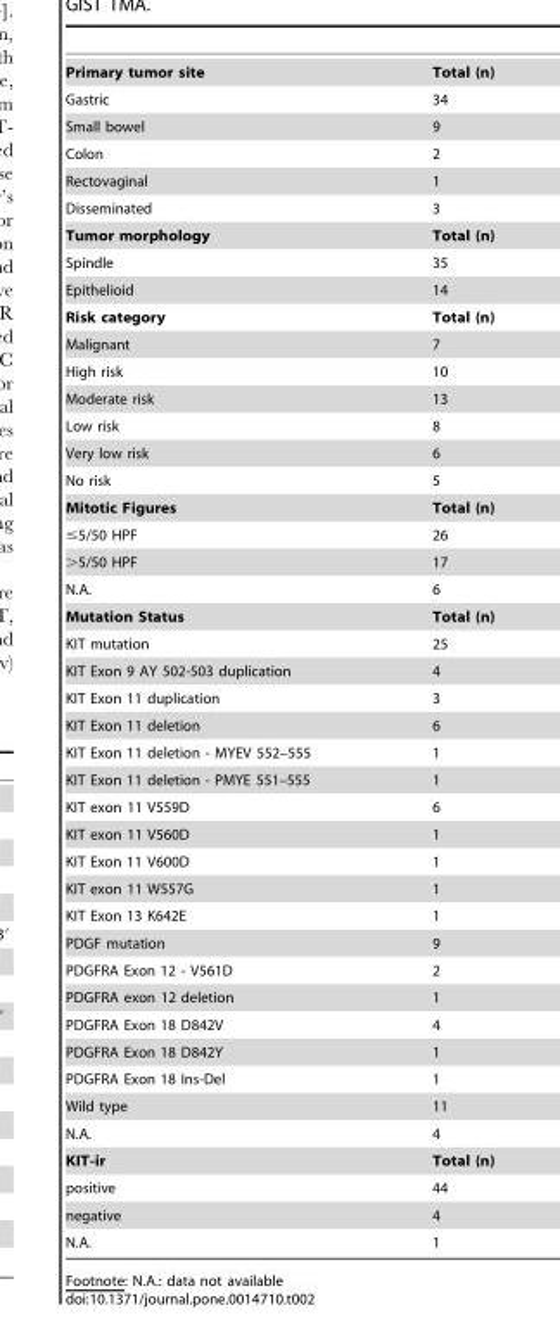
<table><tbody><tr><td>Primary tumor site</td><td>Total (n)</td></tr><tr><td>Gastric</td><td>34</td></tr><tr><td>Small bowel</td><td>9</td></tr><tr><td>Colon</td><td>2</td></tr><tr><td>Rectovaginal</td><td>1</td></tr><tr><td>Disseminated</td><td>3</td></tr><tr><td>Tumor morphology</td><td>Total (n)</td></tr><tr><td>Spindle</td><td>35</td></tr><tr><td>Epithelioid</td><td>14</td></tr><tr><td>Risk category</td><td>Total (n)</td></tr><tr><td>Malignant</td><td>7</td></tr><tr><td>High risk</td><td>10</td></tr><tr><td>Moderate risk</td><td>13</td></tr><tr><td>Low risk</td><td>8</td></tr><tr><td>Very low risk</td><td>6</td></tr><tr><td>No risk</td><td>5</td></tr><tr><td>Mitotic Figures</td><td>Total (n)</td></tr><tr><td>≤5/50 HPF</td><td>26</td></tr><tr><td>&gt;5/50 HPF</td><td>17</td></tr><tr><td>N.A.</td><td>6</td></tr><tr><td>Mutation Status</td><td>Total (n)</td></tr><tr><td>KIT mutation</td><td>25</td></tr><tr><td>KIT Exon 9 AY 502-503 duplication</td><td>4</td></tr><tr><td>KIT Exon 11 duplication</td><td>3</td></tr><tr><td>KIT Exon 11 deletion</td><td>6</td></tr><tr><td>KIT Exon 11 deletion - MYEV 552–555</td><td>1</td></tr><tr><td>KIT Exon 11 deletion - PMYE 551–555</td><td>1</td></tr><tr><td>KIT exon 11 V559D</td><td>6</td></tr><tr><td>KIT exon 11 V560D</td><td>1</td></tr><tr><td>KIT Exon 11 V600D</td><td>1</td></tr><tr><td>KIT exon 11 W557G</td><td>1</td></tr><tr><td>KIT Exon 13 K642E</td><td>1</td></tr><tr><td>PDGF mutation</td><td>9</td></tr><tr><td>PDGFRA Exon 12 - V561D</td><td>2</td></tr><tr><td>PDGFRA exon 12 deletion</td><td>1</td></tr><tr><td>PDGFRA Exon 18 D842V</td><td>4</td></tr><tr><td>PDGFRA Exon 18 D842Y</td><td>1</td></tr><tr><td>PDGFRA Exon 18 Ins-Del</td><td>1</td></tr><tr><td>Wild type</td><td>11</td></tr><tr><td>N.A.</td><td>4</td></tr><tr><td>KIT-ir</td><td>Total (n)</td></tr><tr><td>positive</td><td>44</td></tr><tr><td>negative</td><td>4</td></tr><tr><td>N.A.</td><td>1</td></tr></tbody></table>